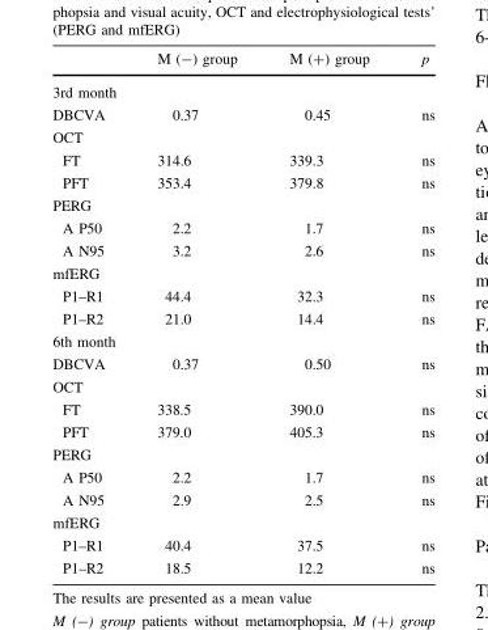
<table><thead><tr><td></td><td>M (-) group</td><td>M (+) group</td><td>p</td></tr></thead><tbody><tr><td colspan="4">3rd month</td></tr><tr><td>DBCVA</td><td>0.37</td><td>0.45</td><td>ns</td></tr><tr><td colspan="4">OCT</td></tr><tr><td>FT</td><td>314.6</td><td>339.3</td><td>ns</td></tr><tr><td>PFT</td><td>353.4</td><td>379.8</td><td>ns</td></tr><tr><td colspan="4">PERG</td></tr><tr><td>A P50</td><td>2.2</td><td>1.7</td><td>ns</td></tr><tr><td>A N95</td><td>3.2</td><td>2.6</td><td>ns</td></tr><tr><td colspan="4">mfERG</td></tr><tr><td>P1–R1</td><td>44.4</td><td>32.3</td><td>ns</td></tr><tr><td>P1–R2</td><td>21.0</td><td>14.4</td><td>ns</td></tr><tr><td colspan="4">6th month</td></tr><tr><td>DBCVA</td><td>0.37</td><td>0.50</td><td>ns</td></tr><tr><td colspan="4">OCT</td></tr><tr><td>FT</td><td>338.5</td><td>390.0</td><td>ns</td></tr><tr><td>PFT</td><td>379.0</td><td>405.3</td><td>ns</td></tr><tr><td colspan="4">PERG</td></tr><tr><td>A P50</td><td>2.2</td><td>1.7</td><td>ns</td></tr><tr><td>A N95</td><td>2.9</td><td>2.5</td><td>ns</td></tr><tr><td colspan="4">mfERG</td></tr><tr><td>P1–R1</td><td>40.4</td><td>37.5</td><td>ns</td></tr><tr><td>P1–R2</td><td>18.5</td><td>12.2</td><td>ns</td></tr></tbody></table>